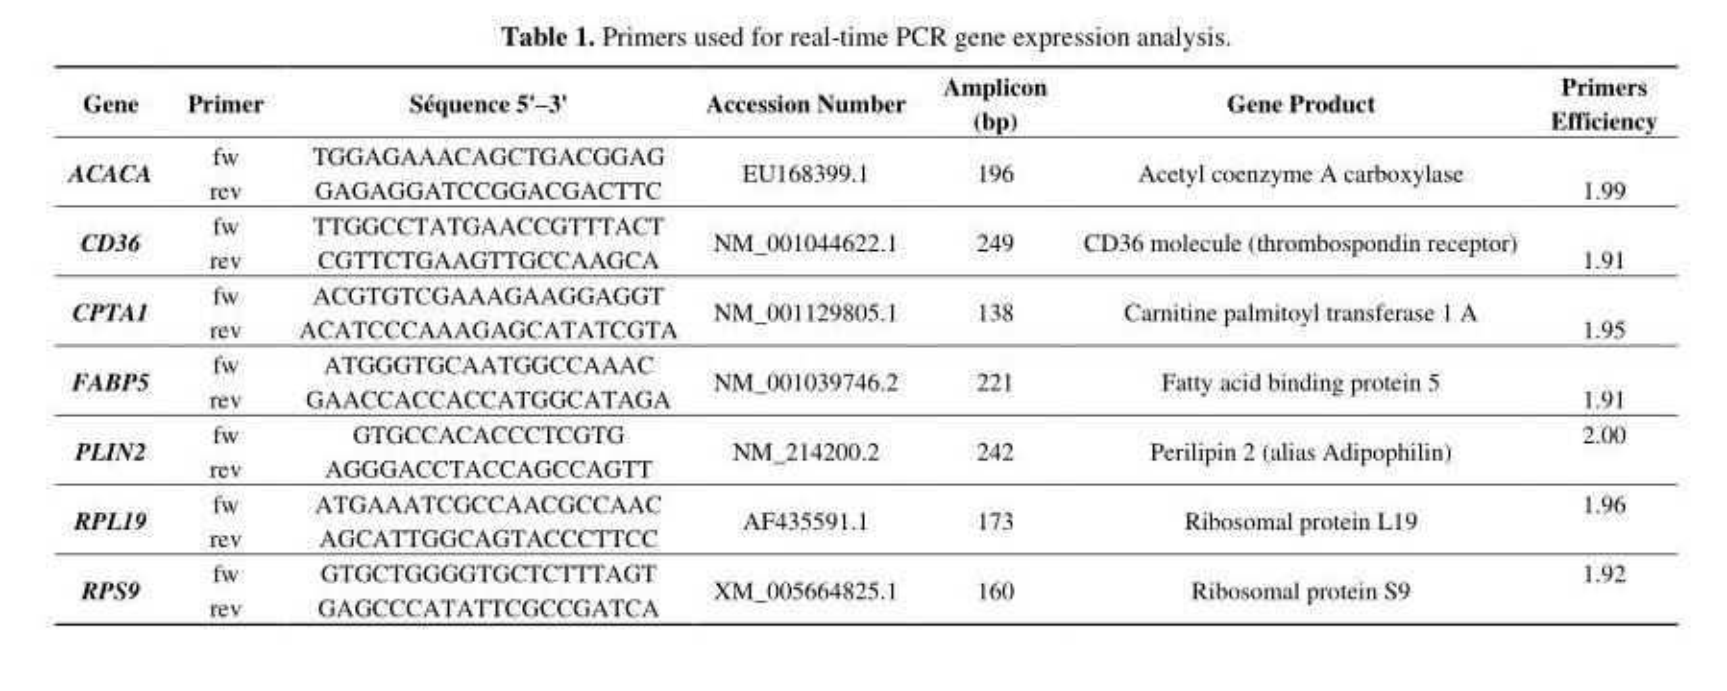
<table><thead><tr><td>Gene</td><td>Primer</td><td>Séquence 5&#x27;–3&#x27;</td><td>Accession Number</td><td>Amplicon (bp)</td><td>Gene Product</td><td>Primers Efficiency</td></tr></thead><tbody><tr><td rowspan="2">ACACA</td><td>fw</td><td>TGGAGAAACAGCTGACGGAG</td><td rowspan="2">EU168399.1</td><td rowspan="2">196</td><td rowspan="2">Acetyl coenzyme A carboxylase</td><td></td></tr><tr><td>rev</td><td>GAGAGGATCCGGACGACTTC</td><td>1.99</td></tr><tr><td rowspan="2">CD36</td><td>fw</td><td>TTGGCCTATGAACCGTTTACT</td><td rowspan="2">NM_001044622.1</td><td rowspan="2">249</td><td rowspan="2">CD36 molecule (thrombospondin receptor)</td><td></td></tr><tr><td>rev</td><td>CGTTCTGAAGTTGCCAAGCA</td><td>1.91</td></tr><tr><td rowspan="2">CPTA1</td><td>fw</td><td>ACGTGTCGAAAGAAGGAGGT</td><td rowspan="2">NM_001129805.1</td><td rowspan="2">138</td><td rowspan="2">Carnitine palmitoyl transferase 1 A</td><td></td></tr><tr><td>rev</td><td>ACATCCCAAAGAGCATATCGTA</td><td>1.95</td></tr><tr><td rowspan="2">FABP5</td><td>fw</td><td>ATGGGTGCAATGGCCAAAC</td><td rowspan="2">NM_001039746.2</td><td rowspan="2">221</td><td rowspan="2">Fatty acid binding protein 5</td><td></td></tr><tr><td>rev</td><td>GAACCACCACCATGGCATAGA</td><td>1.91</td></tr><tr><td rowspan="2">PLIN2</td><td>fw</td><td>GTGCCACACCCTCGTG</td><td rowspan="2">NM_214200.2</td><td rowspan="2">242</td><td rowspan="2">Perilipin 2 (alias Adipophilin)</td><td>2.00</td></tr><tr><td>rev</td><td>AGGGACCTACCAGCCAGTT</td><td></td></tr><tr><td rowspan="2">RPL19</td><td>fw</td><td>ATGAAATCGCCAACGCCAAC</td><td rowspan="2">AF435591.1</td><td rowspan="2">173</td><td rowspan="2">Ribosomal protein L19</td><td>1.96</td></tr><tr><td>rev</td><td>AGCATTGGCAGTACCCTTCC</td><td></td></tr><tr><td rowspan="2">RPS9</td><td>fw</td><td>GTGCTGGGGTGCTCTTTAGT</td><td rowspan="2">XM_005664825.1</td><td rowspan="2">160</td><td rowspan="2">Ribosomal protein S9</td><td>1.92</td></tr><tr><td>rev</td><td>GAGCCCATATTCGCCGATCA</td><td></td></tr></tbody></table>